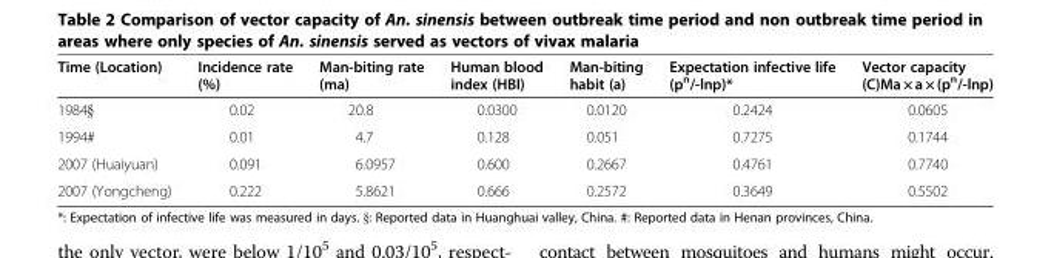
<table><thead><tr><td>Time (Location)</td><td>Incidence rate (%)</td><td>Man-biting rate (ma)</td><td>Human blood index (HBI)</td><td>Man-biting habit (a)</td><td>Expectation infective life (p<sup>n</sup>/-lnp)*</td><td>Vector capacity (C)Ma × a × (p<sup>n</sup>/-lnp)</td></tr></thead><tbody><tr><td>1984§</td><td>0.02</td><td>20.8</td><td>0.0300</td><td>0.0120</td><td>0.2424</td><td>0.0605</td></tr><tr><td>1994#</td><td>0.01</td><td>4.7</td><td>0.128</td><td>0.051</td><td>0.7275</td><td>0.1744</td></tr><tr><td>2007 (Huaiyuan)</td><td>0.091</td><td>6.0957</td><td>0.600</td><td>0.2667</td><td>0.4761</td><td>0.7740</td></tr><tr><td>2007 (Yongcheng)</td><td>0.222</td><td>5.8621</td><td>0.666</td><td>0.2572</td><td>0.3649</td><td>0.5502</td></tr></tbody></table>